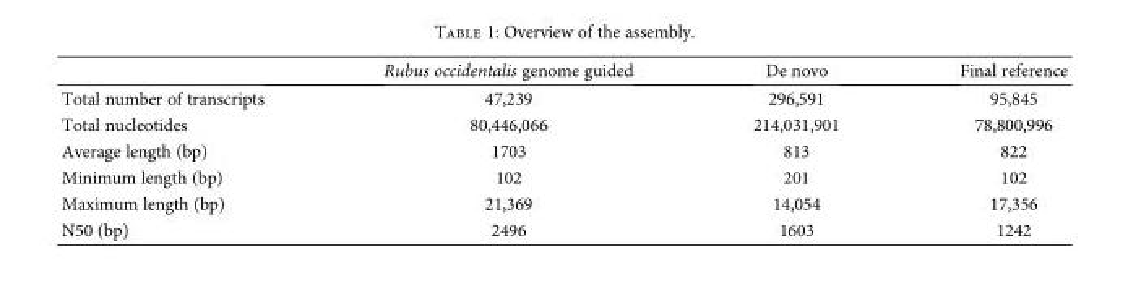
<table><thead><tr><td></td><td>Rubus occidentalis genome guided</td><td>De novo</td><td>Final reference</td></tr></thead><tbody><tr><td>Total number of transcripts</td><td>47,239</td><td>296,591</td><td>95,845</td></tr><tr><td>Total nucleotides</td><td>80,446,066</td><td>214,031,901</td><td>78,800,996</td></tr><tr><td>Average length (bp)</td><td>1703</td><td>813</td><td>822</td></tr><tr><td>Minimum length (bp)</td><td>102</td><td>201</td><td>102</td></tr><tr><td>Maximum length (bp)</td><td>21,369</td><td>14,054</td><td>17,356</td></tr><tr><td>N50 (bp)</td><td>2496</td><td>1603</td><td>1242</td></tr></tbody></table>